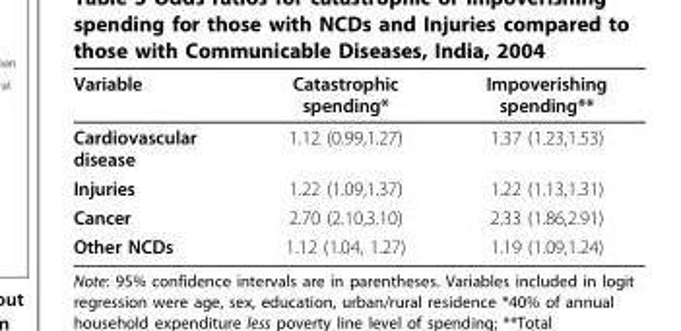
<table><thead><tr><td>Variable</td><td>Catastrophic spending*</td><td>Impoverishing spending**</td></tr></thead><tbody><tr><td>Cardiovascular disease</td><td>1.12 (0.99,1.27)</td><td>1.37 (1.23,1.53)</td></tr><tr><td>Injuries</td><td>1.22 (1.09,1.37)</td><td>1.22 (1.13,1.31)</td></tr><tr><td>Cancer</td><td>2.70 (2.10,3.10)</td><td>2.33 (1.86,2.91)</td></tr><tr><td>Other NCDs</td><td>1.12 (1.04, 1.27)</td><td>1.19 (1.09,1.24)</td></tr></tbody></table>